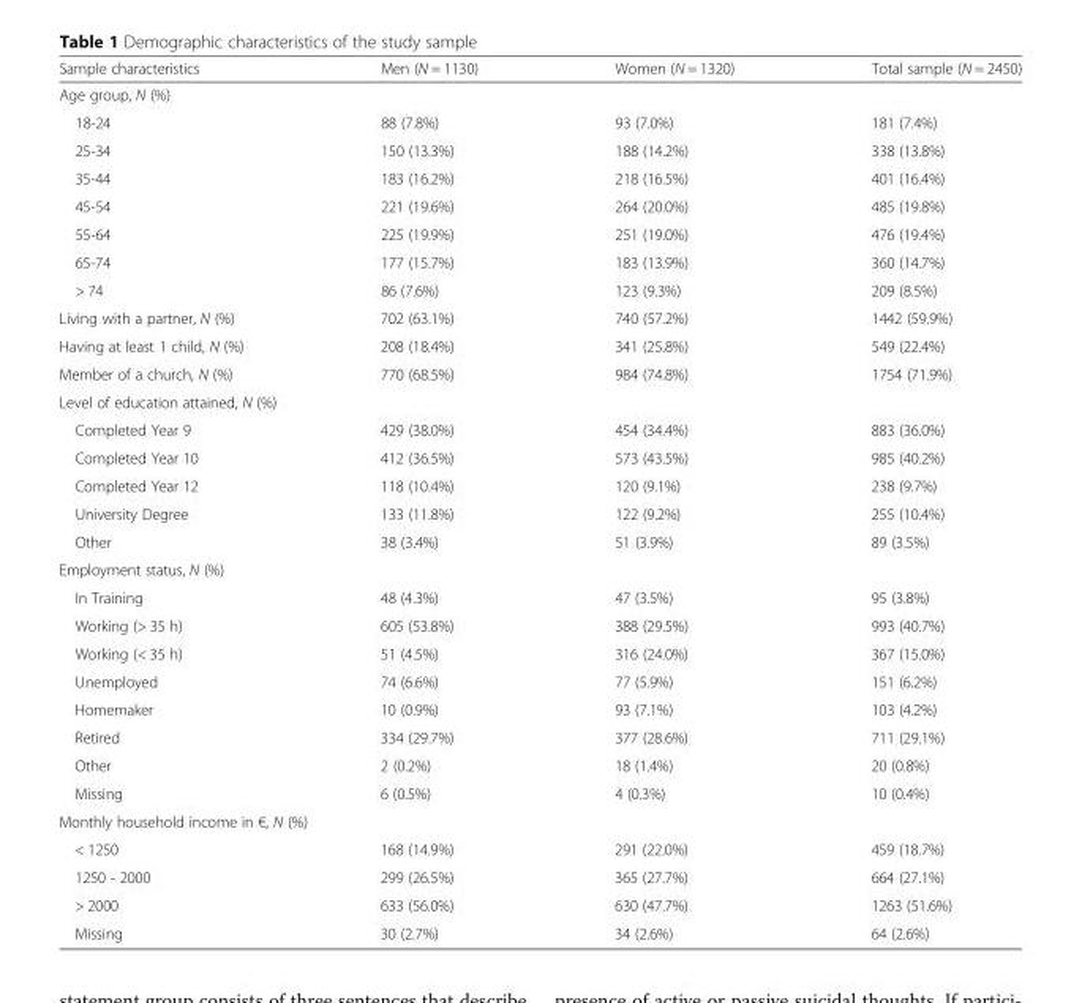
<table><thead><tr><td>Sample characteristics</td><td>Men (N = 1130)</td><td>Women (N = 1320)</td><td>Total sample (N = 2450)</td></tr></thead><tbody><tr><td colspan="4">Age group, N (%)</td></tr><tr><td>18-24</td><td>88 (7.8%)</td><td>93 (7.0%)</td><td>181 (7.4%)</td></tr><tr><td>25-34</td><td>150 (13.3%)</td><td>188 (14.2%)</td><td>338 (13.8%)</td></tr><tr><td>35-44</td><td>183 (16.2%)</td><td>218 (16.5%)</td><td>401 (16.4%)</td></tr><tr><td>45-54</td><td>221 (19.6%)</td><td>264 (20.0%)</td><td>485 (19.8%)</td></tr><tr><td>55-64</td><td>225 (19.9%)</td><td>251 (19.0%)</td><td>476 (19.4%)</td></tr><tr><td>65-74</td><td>177 (15.7%)</td><td>183 (13.9%)</td><td>360 (14.7%)</td></tr><tr><td>&gt; 74</td><td>86 (7.6%)</td><td>123 (9.3%)</td><td>209 (8.5%)</td></tr><tr><td>Living with a partner, N (%)</td><td>702 (63.1%)</td><td>740 (57.2%)</td><td>1442 (59.9%)</td></tr><tr><td>Having at least 1 child, N (%)</td><td>208 (18.4%)</td><td>341 (25.8%)</td><td>549 (22.4%)</td></tr><tr><td>Member of a church, N (%)</td><td>770 (68.5%)</td><td>984 (74.8%)</td><td>1754 (71.9%)</td></tr><tr><td colspan="4">Level of education attained, N (%)</td></tr><tr><td>Completed Year 9</td><td>429 (38.0%)</td><td>454 (34.4%)</td><td>883 (36.0%)</td></tr><tr><td>Completed Year 10</td><td>412 (36.5%)</td><td>573 (43.5%)</td><td>985 (40.2%)</td></tr><tr><td>Completed Year 12</td><td>118 (10.4%)</td><td>120 (9.1%)</td><td>238 (9.7%)</td></tr><tr><td>University Degree</td><td>133 (11.8%)</td><td>122 (9.2%)</td><td>255 (10.4%)</td></tr><tr><td>Other</td><td>38 (3.4%)</td><td>51 (3.9%)</td><td>89 (3.5%)</td></tr><tr><td colspan="4">Employment status, N (%)</td></tr><tr><td>In Training</td><td>48 (4.3%)</td><td>47 (3.5%)</td><td>95 (3.8%)</td></tr><tr><td>Working (&gt; 35 h)</td><td>605 (53.8%)</td><td>388 (29.5%)</td><td>993 (40.7%)</td></tr><tr><td>Working (&lt; 35 h)</td><td>51 (4.5%)</td><td>316 (24.0%)</td><td>367 (15.0%)</td></tr><tr><td>Unemployed</td><td>74 (6.6%)</td><td>77 (5.9%)</td><td>151 (6.2%)</td></tr><tr><td>Homemaker</td><td>10 (0.9%)</td><td>93 (7.1%)</td><td>103 (4.2%)</td></tr><tr><td>Retired</td><td>334 (29.7%)</td><td>377 (28.6%)</td><td>711 (29.1%)</td></tr><tr><td>Other</td><td>2 (0.2%)</td><td>18 (1.4%)</td><td>20 (0.8%)</td></tr><tr><td>Missing</td><td>6 (0.5%)</td><td>4 (0.3%)</td><td>10 (0.4%)</td></tr><tr><td colspan="4">Monthly household income in €, N (%)</td></tr><tr><td>&lt; 1250</td><td>168 (14.9%)</td><td>291 (22.0%)</td><td>459 (18.7%)</td></tr><tr><td>1250 - 2000</td><td>299 (26.5%)</td><td>365 (27.7%)</td><td>664 (27.1%)</td></tr><tr><td>&gt; 2000</td><td>633 (56.0%)</td><td>630 (47.7%)</td><td>1263 (51.6%)</td></tr><tr><td>Missing</td><td>30 (2.7%)</td><td>34 (2.6%)</td><td>64 (2.6%)</td></tr></tbody></table>